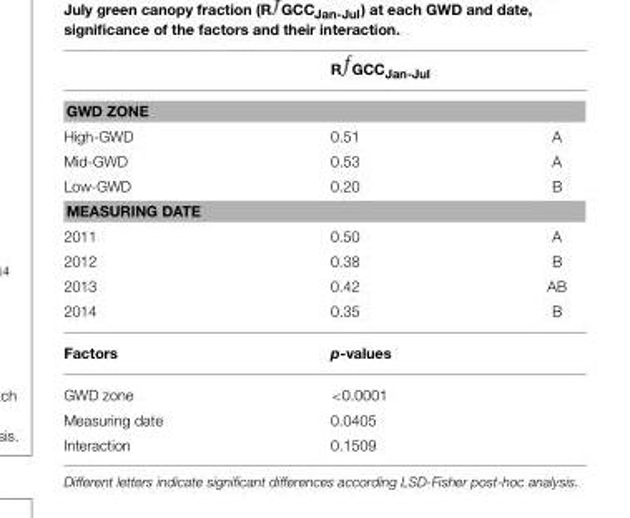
<table><thead><tr><td></td><td colspan="2">R GCCJan-Jul</td></tr><tr><td colspan="3">GWD ZONE</td></tr><tr><td>High-GWD</td><td>0.51</td><td>A</td></tr></thead><tbody><tr><td>Mid-GWD</td><td>0.53</td><td>A</td></tr><tr><td>Low-GWD</td><td>0.20</td><td>B</td></tr><tr><td colspan="3">MEASURING DATE</td></tr><tr><td>2011</td><td>0.50</td><td>A</td></tr><tr><td>2012</td><td>0.38</td><td>B</td></tr><tr><td>2013</td><td>0.42</td><td>AB</td></tr><tr><td>2014</td><td>0.35</td><td>B</td></tr><tr><td>Factors</td><td colspan="2">p-values</td></tr><tr><td>GWD zone</td><td colspan="2">&lt;0.0001</td></tr><tr><td>Measuring date</td><td colspan="2">0.0405</td></tr><tr><td>Interaction</td><td colspan="2">0.1509</td></tr></tbody></table>